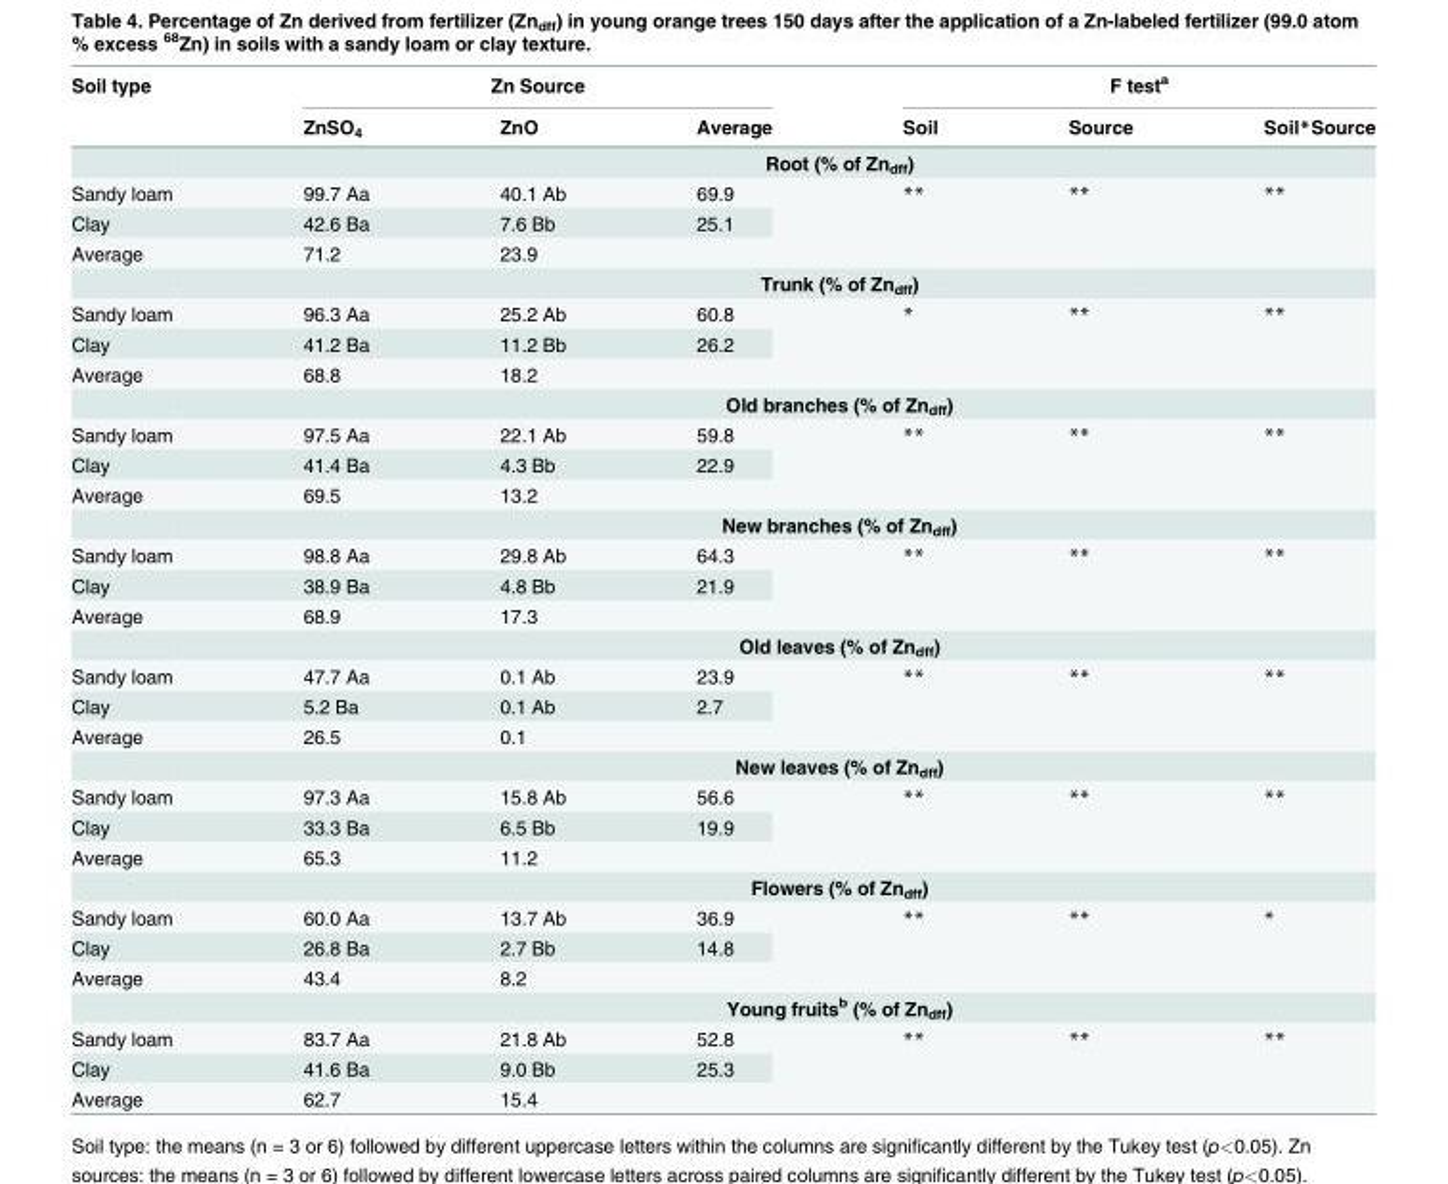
<table><thead><tr><td rowspan="2">Soil type</td><td colspan="3">Zn Source</td><td colspan="3">F test<sup>a</sup></td></tr><tr><td>ZnSO<sub>4</sub></td><td>ZnO</td><td>Average</td><td>Soil</td><td>Source</td><td>Soil*Source</td></tr></thead><tbody><tr><td></td><td colspan="6">Root (% of Zn<sub>dff</sub>)</td></tr><tr><td>Sandy loam</td><td>99.7 Aa</td><td>40.1 Ab</td><td>69.9</td><td rowspan="2">**</td><td rowspan="2">**</td><td rowspan="2">**</td></tr><tr><td>Clay</td><td>42.6 Ba</td><td>7.6 Bb</td><td>25.1</td></tr><tr><td rowspan="2">Average</td><td>71.2</td><td>23.9</td><td></td><td></td><td></td><td></td></tr><tr><td colspan="6">Trunk (% of Zn<sub>dff</sub>)</td></tr><tr><td>Sandy loam</td><td>96.3 Aa</td><td>25.2 Ab</td><td>60.8</td><td rowspan="2">*</td><td rowspan="2">**</td><td rowspan="2">**</td></tr><tr><td>Clay</td><td>41.2 Ba</td><td>11.2 Bb</td><td>26.2</td></tr><tr><td rowspan="2">Average</td><td>68.8</td><td>18.2</td><td></td><td></td><td></td><td></td></tr><tr><td colspan="6">Old branches (% of Zn<sub>dff</sub>)</td></tr><tr><td>Sandy loam</td><td>97.5 Aa</td><td>22.1 Ab</td><td>59.8</td><td rowspan="2">**</td><td rowspan="2">**</td><td rowspan="2">**</td></tr><tr><td>Clay</td><td>41.4 Ba</td><td>4.3 Bb</td><td>22.9</td></tr><tr><td rowspan="2">Average</td><td>69.5</td><td>13.2</td><td></td><td></td><td></td><td></td></tr><tr><td colspan="6">New branches (% of Zn<sub>dff</sub>)</td></tr><tr><td>Sandy loam</td><td>98.8 Aa</td><td>29.8 Ab</td><td>64.3</td><td rowspan="2">**</td><td rowspan="2">**</td><td rowspan="2">**</td></tr><tr><td>Clay</td><td>38.9 Ba</td><td>4.8 Bb</td><td>21.9</td></tr><tr><td rowspan="2">Average</td><td>68.9</td><td>17.3</td><td></td><td></td><td></td><td></td></tr><tr><td colspan="6">Old leaves (% of Zn<sub>dff</sub>)</td></tr><tr><td>Sandy loam</td><td>47.7 Aa</td><td>0.1 Ab</td><td>23.9</td><td rowspan="2">**</td><td rowspan="2">**</td><td rowspan="2">**</td></tr><tr><td>Clay</td><td>5.2 Ba</td><td>0.1 Ab</td><td>2.7</td></tr><tr><td rowspan="2">Average</td><td>26.5</td><td>0.1</td><td></td><td></td><td></td><td></td></tr><tr><td colspan="6">New leaves (% of Zn<sub>dff</sub>)</td></tr><tr><td>Sandy loam</td><td>97.3 Aa</td><td>15.8 Ab</td><td>56.6</td><td rowspan="2">**</td><td rowspan="2">**</td><td rowspan="2">**</td></tr><tr><td>Clay</td><td>33.3 Ba</td><td>6.5 Bb</td><td>19.9</td></tr><tr><td rowspan="2">Average</td><td>65.3</td><td>11.2</td><td></td><td></td><td></td><td></td></tr><tr><td colspan="6">Flowers (% of Zn<sub>dff</sub>)</td></tr><tr><td>Sandy loam</td><td>60.0 Aa</td><td>13.7 Ab</td><td>36.9</td><td rowspan="2">**</td><td rowspan="2">**</td><td rowspan="2">*</td></tr><tr><td>Clay</td><td>26.8 Ba</td><td>2.7 Bb</td><td>14.8</td></tr><tr><td rowspan="2">Average</td><td>43.4</td><td>8.2</td><td></td><td></td><td></td><td></td></tr><tr><td colspan="6">Young fruits<sup>b</sup> (% of Zn<sub>dff</sub>)</td></tr><tr><td>Sandy loam</td><td>83.7 Aa</td><td>21.8 Ab</td><td>52.8</td><td rowspan="2">**</td><td rowspan="2">**</td><td rowspan="2">**</td></tr><tr><td>Clay</td><td>41.6 Ba</td><td>9.0 Bb</td><td>25.3</td></tr><tr><td>Average</td><td>62.7</td><td>15.4</td><td></td><td></td><td></td><td></td></tr></tbody></table>